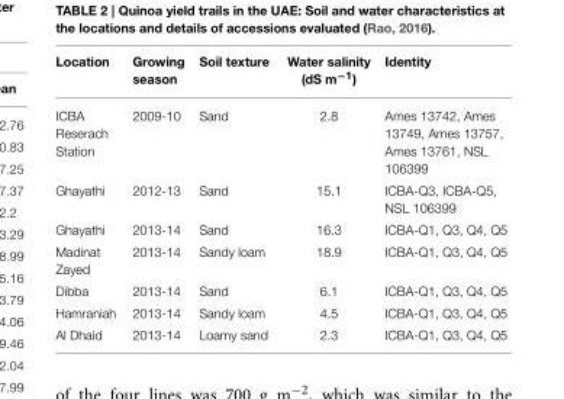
<table><thead><tr><td>Location</td><td>Growing season</td><td>Soil texture</td><td>Water salinity (dS m<sup>−1</sup>)</td><td>Identity</td></tr></thead><tbody><tr><td>ICBA Reserach Station</td><td>2009-10</td><td>Sand</td><td>2.8</td><td>Ames 13742, Ames 13749, Ames 13757, Ames 13761, NSL 106399</td></tr><tr><td>Ghayathi</td><td>2012-13</td><td>Sand</td><td>15.1</td><td>ICBA-Q3, ICBA-Q5, NSL 106399</td></tr><tr><td>Ghayathi</td><td>2013-14</td><td>Sand</td><td>16.3</td><td>ICBA-Q1, Q3, Q4, Q5</td></tr><tr><td>Madinat Zayed</td><td>2013-14</td><td>Sandy loam</td><td>18.9</td><td>ICBA-Q1, Q3, Q4, Q5</td></tr><tr><td>Dibba</td><td>2013-14</td><td>Sand</td><td>6.1</td><td>ICBA-Q1, Q3, Q4, Q5</td></tr><tr><td>Hamraniah</td><td>2013-14</td><td>Sandy loam</td><td>4.5</td><td>ICBA-Q1, Q3, Q4, Q5</td></tr><tr><td>Al Dhaid</td><td>2013-14</td><td>Loamy sand</td><td>2.3</td><td>ICBA-Q1, Q3, Q4, Q5</td></tr></tbody></table>